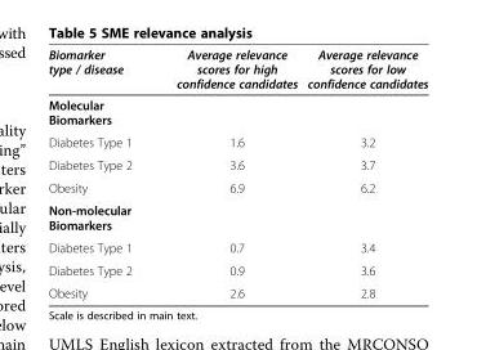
<table><thead><tr><td>Biomarker type / disease</td><td>Average relevance scores for high confidence candidates</td><td>Average relevance scores for low confidence candidates</td></tr></thead><tbody><tr><td colspan="3">Molecular Biomarkers</td></tr><tr><td>Diabetes Type 1</td><td>1.6</td><td>3.2</td></tr><tr><td>Diabetes Type 2</td><td>3.6</td><td>3.7</td></tr><tr><td>Obesity</td><td>6.9</td><td>6.2</td></tr><tr><td colspan="3">Non-molecular Biomarkers</td></tr><tr><td>Diabetes Type 1</td><td>0.7</td><td>3.4</td></tr><tr><td>Diabetes Type 2</td><td>0.9</td><td>3.6</td></tr><tr><td>Obesity</td><td>2.6</td><td>2.8</td></tr></tbody></table>